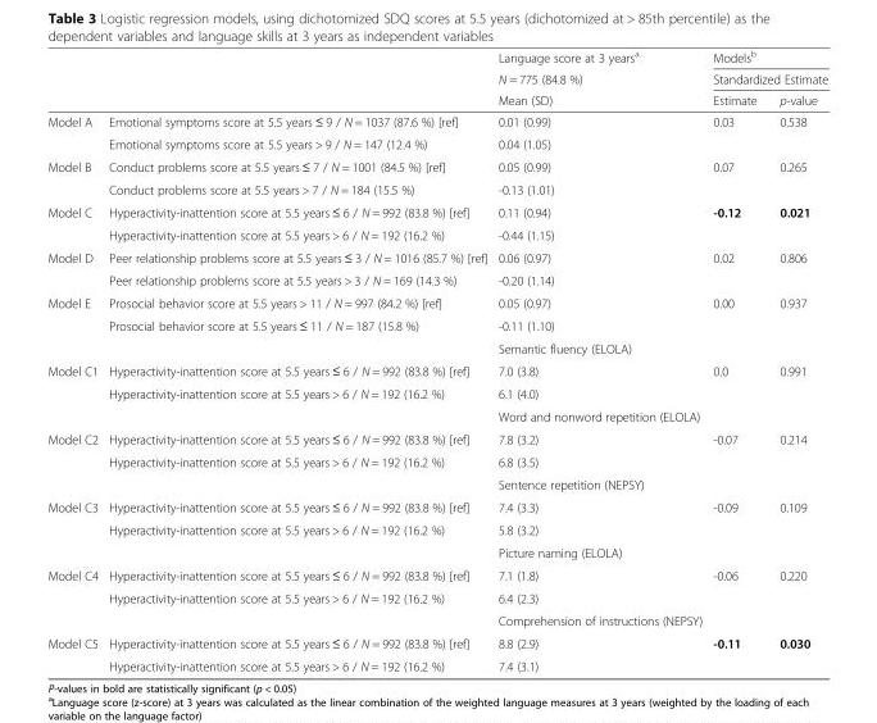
<table><thead><tr><td rowspan="3"></td><td rowspan="3"></td><td rowspan="3">Language score at 3 years<sup>a</sup> N = 775 (84.8 %) Mean (SD)</td><td rowspan="2" colspan="2">Models<sup>b</sup> Standardized Estimate</td></tr><tr></tr><tr><td>Estimate</td><td>p-value</td></tr></thead><tbody><tr><td rowspan="2">Model A</td><td>Emotional symptoms score at 5.5 years ≤ 9 / N = 1037 (87.6 %) [ref]</td><td>0.01 (0.99)</td><td>0.03</td><td>0.538</td></tr><tr><td>Emotional symptoms score at 5.5 years &gt; 9 / N = 147 (12.4 %)</td><td>0.04 (1.05)</td><td></td><td></td></tr><tr><td rowspan="2">Model B</td><td>Conduct problems score at 5.5 years ≤ 7 / N = 1001 (84.5 %) [ref]</td><td>0.05 (0.99)</td><td>0.07</td><td>0.265</td></tr><tr><td>Conduct problems score at 5.5 years &gt; 7 / N = 184 (15.5 %)</td><td>-0.13 (1.01)</td><td></td><td></td></tr><tr><td rowspan="2">Model C</td><td>Hyperactivity-inattention score at 5.5 years ≤ 6 / N = 992 (83.8 %) [ref]</td><td>0.11 (0.94)</td><td>-0.12</td><td>0.021</td></tr><tr><td>Hyperactivity-inattention score at 5.5 years &gt; 6 / N = 192 (16.2 %)</td><td>-0.44 (1.15)</td><td></td><td></td></tr><tr><td rowspan="2">Model D</td><td>Peer relationship problems score at 5.5 years ≤ 3 / N = 1016 (85.7 %) [ref]</td><td>0.06 (0.97)</td><td>0.02</td><td>0.806</td></tr><tr><td>Peer relationship problems score at 5.5 years &gt; 3 / N = 169 (14.3 %)</td><td>-0.20 (1.14)</td><td></td><td></td></tr><tr><td rowspan="3">Model E</td><td>Prosocial behavior score at 5.5 years &gt; 11 / N = 997 (84.2 %) [ref]</td><td>0.05 (0.97)</td><td>0.00</td><td>0.937</td></tr><tr><td>Prosocial behavior score at 5.5 years ≤ 11 / N = 187 (15.8 %)</td><td>-0.11 (1.10)</td><td></td><td></td></tr><tr><td></td><td>Semantic fluency (ELOLA)</td><td></td><td></td></tr><tr><td rowspan="3">Model C1</td><td>Hyperactivity-inattention score at 5.5 years ≤ 6 / N = 992 (83.8 %) [ref]</td><td>7.0 (3.8)</td><td>0.0</td><td>0.991</td></tr><tr><td>Hyperactivity-inattention score at 5.5 years &gt; 6 / N = 192 (16.2 %)</td><td>6.1 (4.0)</td><td></td><td></td></tr><tr><td></td><td>Word and nonword repetition (ELOLA)</td><td></td><td></td></tr><tr><td rowspan="3">Model C2</td><td>Hyperactivity-inattention score at 5.5 years ≤ 6 / N = 992 (83.8 %) [ref]</td><td>7.8 (3.2)</td><td>-0.07</td><td>0.214</td></tr><tr><td>Hyperactivity-inattention score at 5.5 years &gt; 6 / N = 192 (16.2 %)</td><td>6.8 (3.5)</td><td></td><td></td></tr><tr><td></td><td>Sentence repetition (NEPSY)</td><td></td><td></td></tr><tr><td rowspan="3">Model C3</td><td>Hyperactivity-inattention score at 5.5 years ≤ 6 / N = 992 (83.8 %) [ref]</td><td>7.4 (3.3)</td><td>-0.09</td><td>0.109</td></tr><tr><td>Hyperactivity-inattention score at 5.5 years &gt; 6 / N = 192 (16.2 %)</td><td>5.8 (3.2)</td><td></td><td></td></tr><tr><td></td><td>Picture naming (ELOLA)</td><td></td><td></td></tr><tr><td rowspan="3">Model C4</td><td>Hyperactivity-inattention score at 5.5 years ≤ 6 / N = 992 (83.8 %) [ref]</td><td>7.1 (1.8)</td><td>-0.06</td><td>0.220</td></tr><tr><td>Hyperactivity-inattention score at 5.5 years &gt; 6 / N = 192 (16.2 %)</td><td>6.4 (2.3)</td><td></td><td></td></tr><tr><td></td><td>Comprehension of instructions (NEPSY)</td><td></td><td></td></tr><tr><td rowspan="2">Model C5</td><td>Hyperactivity-inattention score at 5.5 years ≤ 6 / N = 992 (83.8 %) [ref]</td><td>8.8 (2.9)</td><td>-0.11</td><td>0.030</td></tr><tr><td>Hyperactivity-inattention score at 5.5 years &gt; 6 / N = 192 (16.2 %)</td><td>7.4 (3.1)</td><td></td><td></td></tr></tbody></table>